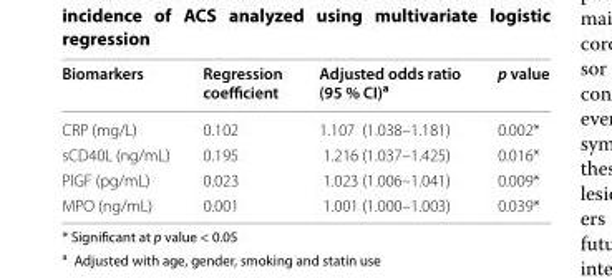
<table><thead><tr><td>Biomarkers</td><td>Regression coefficient</td><td>Adjusted odds ratio (95 % CI)<sup>a</sup></td><td>p value</td></tr></thead><tbody><tr><td>CRP (mg/L)</td><td>0.102</td><td>1.107 (1.038–1.181)</td><td>0.002*</td></tr><tr><td>sCD40L (ng/mL)</td><td>0.195</td><td>1.216 (1.037–1.425)</td><td>0.016*</td></tr><tr><td>PlGF (pg/mL)</td><td>0.023</td><td>1.023 (1.006–1.041)</td><td>0.009*</td></tr><tr><td>MPO (ng/mL)</td><td>0.001</td><td>1.001 (1.000–1.003)</td><td>0.039*</td></tr></tbody></table>